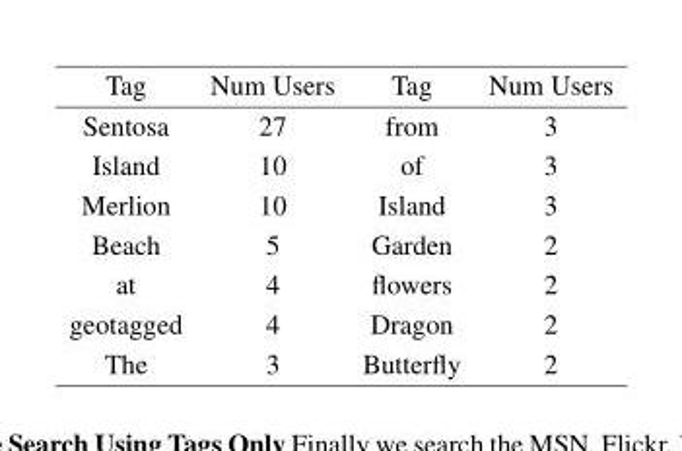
<table><thead><tr><td>Tag</td><td>Num Users</td><td>Tag</td><td>Num Users</td></tr></thead><tbody><tr><td>Sentosa</td><td>27</td><td>from</td><td>3</td></tr><tr><td>Island</td><td>10</td><td>of</td><td>3</td></tr><tr><td>Merlion</td><td>10</td><td>Island</td><td>3</td></tr><tr><td>Beach</td><td>5</td><td>Garden</td><td>2</td></tr><tr><td>at</td><td>4</td><td>flowers</td><td>2</td></tr><tr><td>geotagged</td><td>4</td><td>Dragon</td><td>2</td></tr><tr><td>The</td><td>3</td><td>Butterfly</td><td>2</td></tr></tbody></table>